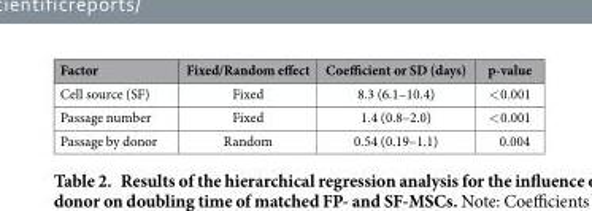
<table><thead><tr><td>Factor</td><td>Fixed/Random effect</td><td>Coefficient or SD (days)</td><td>p-value</td></tr></thead><tbody><tr><td>Cell source (SF)</td><td>Fixed</td><td>8.3 (6.1–10.4)</td><td>&lt; 0.001</td></tr><tr><td>Passage number</td><td>Fixed</td><td>1.4 (0.8–2.0)</td><td>&lt; 0.001</td></tr><tr><td>Passage by donor</td><td>Random</td><td>0.54 (0.19–1.1)</td><td>0.004</td></tr></tbody></table>